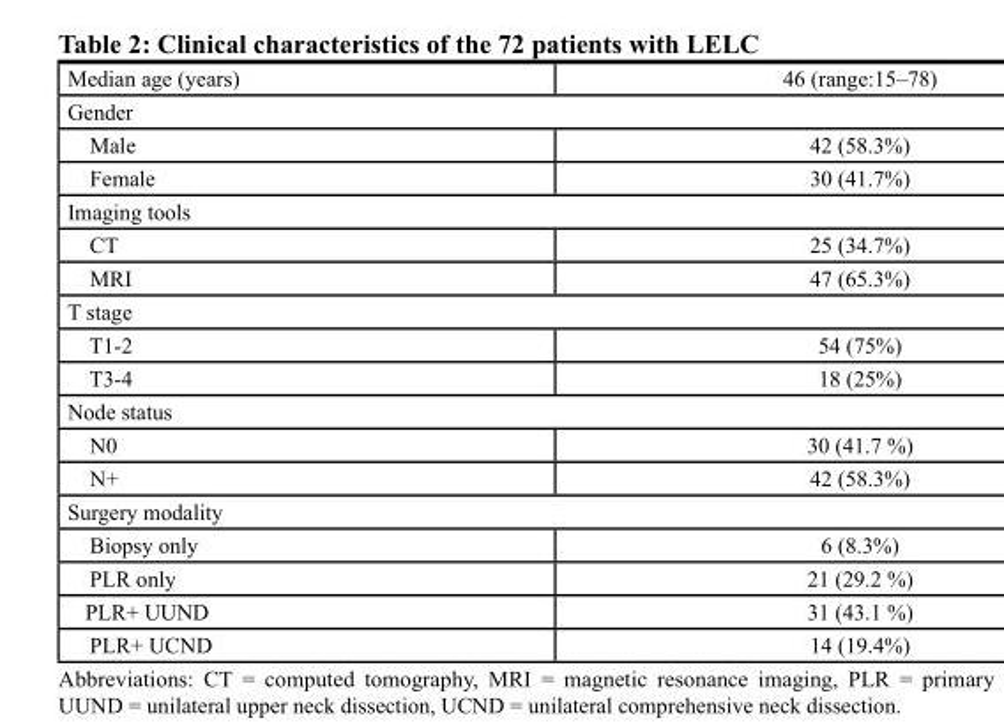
<table><tbody><tr><td>Median age (years)</td><td>46 (range:15–78)</td></tr><tr><td colspan="2">Gender</td></tr><tr><td>Male</td><td>42 (58.3%)</td></tr><tr><td>Female</td><td>30 (41.7%)</td></tr><tr><td colspan="2">Imaging tools</td></tr><tr><td>CT</td><td>25 (34.7%)</td></tr><tr><td>MRI</td><td>47 (65.3%)</td></tr><tr><td colspan="2">T stage</td></tr><tr><td>T1-2</td><td>54 (75%)</td></tr><tr><td>T3-4</td><td>18 (25%)</td></tr><tr><td colspan="2">Node status</td></tr><tr><td>N0</td><td>30 (41.7 %)</td></tr><tr><td>N+</td><td>42 (58.3%)</td></tr><tr><td colspan="2">Surgery modality</td></tr><tr><td>Biopsy only</td><td>6 (8.3%)</td></tr><tr><td>PLR only</td><td>21 (29.2 %)</td></tr><tr><td>PLR+ UUND</td><td>31 (43.1 %)</td></tr><tr><td>PLR+ UCND</td><td>14 (19.4%)</td></tr></tbody></table>